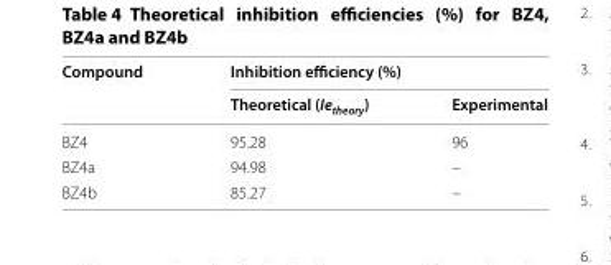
<table><thead><tr><td rowspan="2">Compound</td><td colspan="2">Inhibition efficiency (%)</td></tr><tr><td>Theoretical (Ie<sub>theory</sub>)</td><td>Experimental</td></tr></thead><tbody><tr><td>BZ4</td><td>95.28</td><td>96</td></tr><tr><td>BZ4a</td><td>94.98</td><td>–</td></tr><tr><td>BZ4b</td><td>85.27</td><td>–</td></tr></tbody></table>